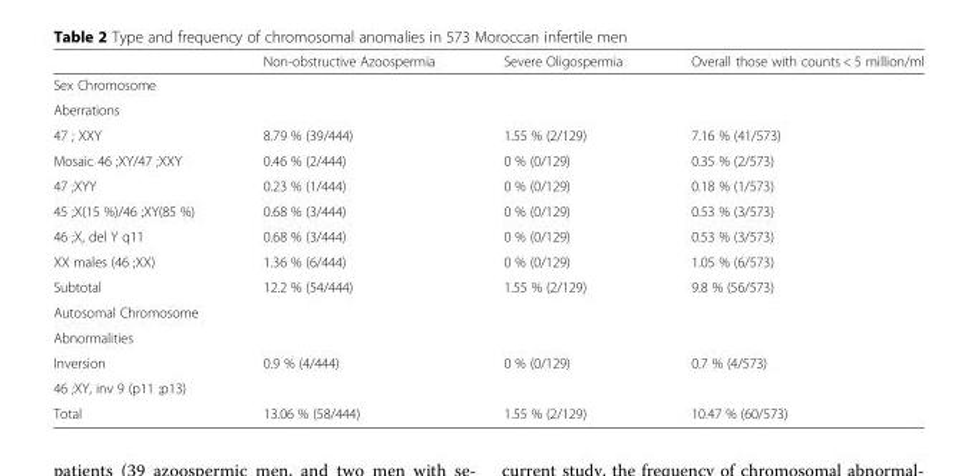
<table><thead><tr><td></td><td>Non-obstructive Azoospermia</td><td>Severe Oligospermia</td><td>Overall those with counts &lt; 5 million/ml</td></tr></thead><tbody><tr><td colspan="4">Sex Chromosome</td></tr><tr><td colspan="4">Aberrations</td></tr><tr><td>47 ; XXY</td><td>8.79 % (39/444)</td><td>1.55 % (2/129)</td><td>7.16 % (41/573)</td></tr><tr><td>Mosaic 46 ;XY/47 ;XXY</td><td>0.46 % (2/444)</td><td>0 % (0/129)</td><td>0.35 % (2/573)</td></tr><tr><td>47 ;XYY</td><td>0.23 % (1/444)</td><td>0 % (0/129)</td><td>0.18 % (1/573)</td></tr><tr><td>45 ;X(15 %)/46 ;XY(85 %)</td><td>0.68 % (3/444)</td><td>0 % (0/129)</td><td>0.53 % (3/573)</td></tr><tr><td>46 ;X, del Y q11</td><td>0.68 % (3/444)</td><td>0 % (0/129)</td><td>0.53 % (3/573)</td></tr><tr><td>XX males (46 ;XX)</td><td>1.36 % (6/444)</td><td>0 % (0/129)</td><td>1.05 % (6/573)</td></tr><tr><td>Subtotal</td><td>12.2 % (54/444)</td><td>1.55 % (2/129)</td><td>9.8 % (56/573)</td></tr><tr><td colspan="4">Autosomal Chromosome</td></tr><tr><td colspan="4">Abnormalities</td></tr><tr><td>Inversion</td><td>0.9 % (4/444)</td><td>0 % (0/129)</td><td>0.7 % (4/573)</td></tr><tr><td colspan="4">46 ;XY, inv 9 (p11 ;p13)</td></tr><tr><td>Total</td><td>13.06 % (58/444)</td><td>1.55 % (2/129)</td><td>10.47 % (60/573)</td></tr></tbody></table>